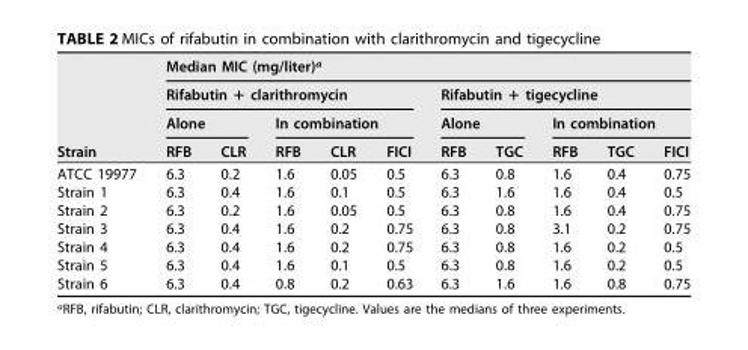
<table><thead><tr><td rowspan="4">Strain</td><td colspan="10">Median MIC (mg/liter)<sup>a</sup></td></tr><tr><td colspan="5">Rifabutin + clarithromycin</td><td colspan="5">Rifabutin + tigecycline</td></tr><tr><td colspan="2">Alone</td><td colspan="3">In combination</td><td colspan="2">Alone</td><td colspan="3">In combination</td></tr><tr><td>RFB</td><td>CLR</td><td>RFB</td><td>CLR</td><td>FICI</td><td>RFB</td><td>TGC</td><td>RFB</td><td>TGC</td><td>FICI</td></tr></thead><tbody><tr><td>ATCC 19977</td><td>6.3</td><td>0.2</td><td>1.6</td><td>0.05</td><td>0.5</td><td>6.3</td><td>0.8</td><td>1.6</td><td>0.4</td><td>0.75</td></tr><tr><td>Strain 1</td><td>6.3</td><td>0.4</td><td>1.6</td><td>0.1</td><td>0.5</td><td>6.3</td><td>1.6</td><td>1.6</td><td>0.4</td><td>0.5</td></tr><tr><td>Strain 2</td><td>6.3</td><td>0.2</td><td>1.6</td><td>0.05</td><td>0.5</td><td>6.3</td><td>0.8</td><td>1.6</td><td>0.4</td><td>0.75</td></tr><tr><td>Strain 3</td><td>6.3</td><td>0.4</td><td>1.6</td><td>0.2</td><td>0.75</td><td>6.3</td><td>0.8</td><td>3.1</td><td>0.2</td><td>0.75</td></tr><tr><td>Strain 4</td><td>6.3</td><td>0.4</td><td>1.6</td><td>0.2</td><td>0.75</td><td>6.3</td><td>0.8</td><td>1.6</td><td>0.2</td><td>0.5</td></tr><tr><td>Strain 5</td><td>6.3</td><td>0.4</td><td>1.6</td><td>0.1</td><td>0.5</td><td>6.3</td><td>0.8</td><td>1.6</td><td>0.2</td><td>0.5</td></tr><tr><td>Strain 6</td><td>6.3</td><td>0.4</td><td>0.8</td><td>0.2</td><td>0.63</td><td>6.3</td><td>1.6</td><td>1.6</td><td>0.8</td><td>0.75</td></tr></tbody></table>